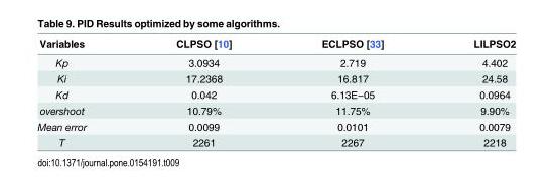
<table><thead><tr><td>Variables</td><td>CLPSO [10]</td><td>ECLPSO [33]</td><td>LILPSO2</td></tr></thead><tbody><tr><td>Kp</td><td>3.0934</td><td>2.719</td><td>4.402</td></tr><tr><td>Ki</td><td>17.2368</td><td>16.817</td><td>24.58</td></tr><tr><td>Kd</td><td>0.042</td><td>6.13E−05</td><td>0.0964</td></tr><tr><td>overshoot</td><td>10.79%</td><td>11.75%</td><td>9.90%</td></tr><tr><td>Mean error</td><td>0.0099</td><td>0.0101</td><td>0.0079</td></tr><tr><td>T</td><td>2261</td><td>2267</td><td>2218</td></tr></tbody></table>